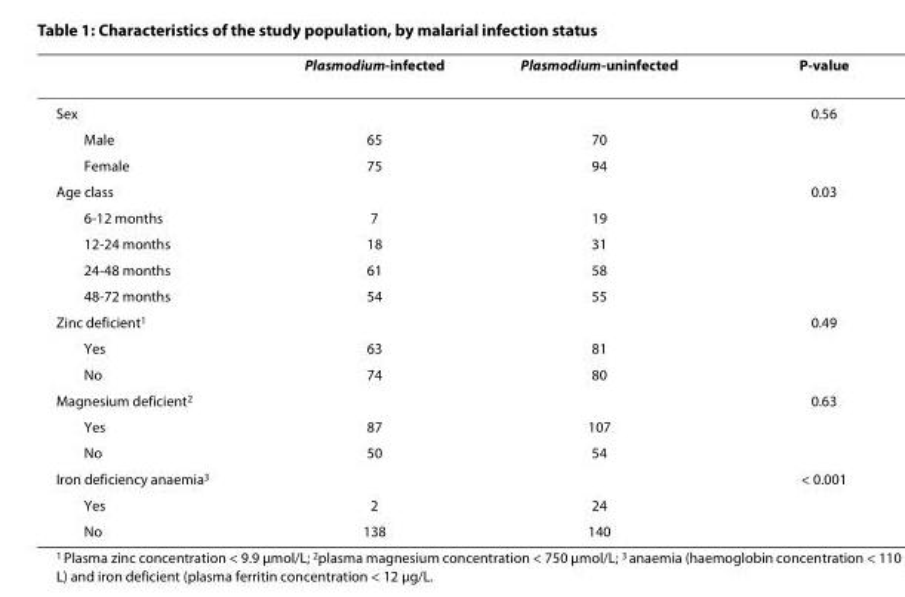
<table><thead><tr><td></td><td>Plasmodium-infected</td><td>Plasmodium-uninfected</td><td>P-value</td></tr></thead><tbody><tr><td>Sex</td><td></td><td></td><td>0.56</td></tr><tr><td>Male</td><td>65</td><td>70</td><td></td></tr><tr><td>Female</td><td>75</td><td>94</td><td></td></tr><tr><td>Age class</td><td></td><td></td><td>0.03</td></tr><tr><td>6-12 months</td><td>7</td><td>19</td><td></td></tr><tr><td>12-24 months</td><td>18</td><td>31</td><td></td></tr><tr><td>24-48 months</td><td>61</td><td>58</td><td></td></tr><tr><td>48-72 months</td><td>54</td><td>55</td><td></td></tr><tr><td>Zinc deficient<sup>1</sup></td><td></td><td></td><td>0.49</td></tr><tr><td>Yes</td><td>63</td><td>81</td><td></td></tr><tr><td>No</td><td>74</td><td>80</td><td></td></tr><tr><td>Magnesium deficient<sup>2</sup></td><td></td><td></td><td>0.63</td></tr><tr><td>Yes</td><td>87</td><td>107</td><td></td></tr><tr><td>No</td><td>50</td><td>54</td><td></td></tr><tr><td>Iron deficiency anaemia<sup>3</sup></td><td></td><td></td><td>&lt; 0.001</td></tr><tr><td>Yes</td><td>2</td><td>24</td><td></td></tr><tr><td>No</td><td>138</td><td>140</td><td></td></tr></tbody></table>